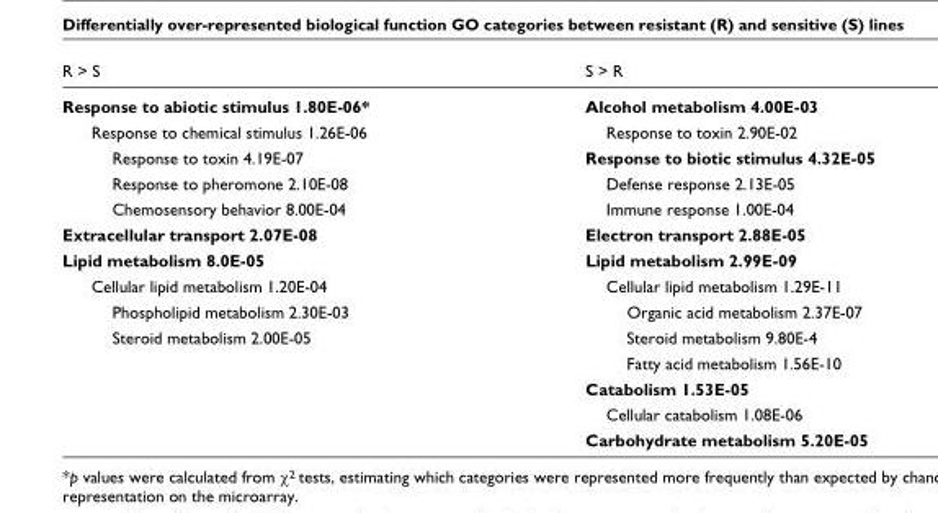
<table><thead><tr><td>R &gt; S</td><td>S &gt; R</td></tr></thead><tbody><tr><td>Response to abiotic stimulus 1.80E-06*</td><td>Alcohol metabolism 4.00E-03</td></tr><tr><td>Response to chemical stimulus 1.26E-06</td><td>Response to toxin 2.90E-02</td></tr><tr><td>Response to toxin 4.19E-07</td><td>Response to biotic stimulus 4.32E-05</td></tr><tr><td>Response to pheromone 2.10E-08</td><td>Defense response 2.13E-05</td></tr><tr><td>Chemosensory behavior 8.00E-04</td><td>Immune response 1.00E-04</td></tr><tr><td>Extracellular transport 2.07E-08</td><td>Electron transport 2.88E-05</td></tr><tr><td>Lipid metabolism 8.0E-05</td><td>Lipid metabolism 2.99E-09</td></tr><tr><td>Cellular lipid metabolism 1.20E-04</td><td>Cellular lipid metabolism 1.29E-11</td></tr><tr><td>Phospholipid metabolism 2.30E-03</td><td>Organic acid metabolism 2.37E-07</td></tr><tr><td rowspan="5">Steroid metabolism 2.00E-05</td><td>Steroid metabolism 9.80E-4</td></tr><tr><td>Fatty acid metabolism 1.56E-10</td></tr><tr><td>Catabolism 1.53E-05</td></tr><tr><td>Cellular catabolism 1.08E-06</td></tr><tr><td>Carbohydrate metabolism 5.20E-05</td></tr></tbody></table>